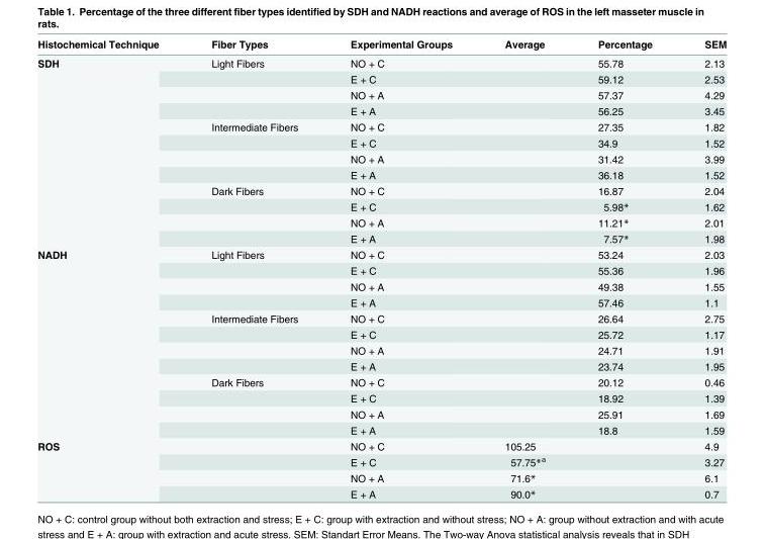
<table><thead><tr><td>Histochemical Technique</td><td>Fiber Types</td><td>Experimental Groups</td><td>Average</td><td>Percentage</td><td>SEM</td></tr></thead><tbody><tr><td rowspan="12">SDH</td><td>Light Fibers</td><td>NO + C</td><td></td><td>55.78</td><td>2.13</td></tr><tr><td></td><td>E + C</td><td></td><td>59.12</td><td>2.53</td></tr><tr><td></td><td>NO + A</td><td></td><td>57.37</td><td>4.29</td></tr><tr><td></td><td>E + A</td><td></td><td>56.25</td><td>3.45</td></tr><tr><td>Intermediate Fibers</td><td>NO + C</td><td></td><td>27.35</td><td>1.82</td></tr><tr><td></td><td>E + C</td><td></td><td>34.9</td><td>1.52</td></tr><tr><td></td><td>NO + A</td><td></td><td>31.42</td><td>3.99</td></tr><tr><td></td><td>E + A</td><td></td><td>36.18</td><td>1.52</td></tr><tr><td>Dark Fibers</td><td>NO + C</td><td></td><td>16.87</td><td>2.04</td></tr><tr><td></td><td>E + C</td><td></td><td>5.98*</td><td>1.62</td></tr><tr><td></td><td>NO + A</td><td></td><td>11.21*</td><td>2.01</td></tr><tr><td></td><td>E + A</td><td></td><td>7.57*</td><td>1.98</td></tr><tr><td rowspan="12">NADH</td><td>Light Fibers</td><td>NO + C</td><td></td><td>53.24</td><td>2.03</td></tr><tr><td></td><td>E + C</td><td></td><td>55.36</td><td>1.96</td></tr><tr><td></td><td>NO + A</td><td></td><td>49.38</td><td>1.55</td></tr><tr><td></td><td>E + A</td><td></td><td>57.46</td><td>1.1</td></tr><tr><td>Intermediate Fibers</td><td>NO + C</td><td></td><td>26.64</td><td>2.75</td></tr><tr><td></td><td>E + C</td><td></td><td>25.72</td><td>1.17</td></tr><tr><td></td><td>NO + A</td><td></td><td>24.71</td><td>1.91</td></tr><tr><td></td><td>E + A</td><td></td><td>23.74</td><td>1.95</td></tr><tr><td>Dark Fibers</td><td>NO + C</td><td></td><td>20.12</td><td>0.46</td></tr><tr><td></td><td>E + C</td><td></td><td>18.92</td><td>1.39</td></tr><tr><td></td><td>NO + A</td><td></td><td>25.91</td><td>1.69</td></tr><tr><td></td><td>E + A</td><td></td><td>18.8</td><td>1.59</td></tr><tr><td rowspan="4">ROS</td><td></td><td>NO + C</td><td>105.25</td><td></td><td>4.9</td></tr><tr><td></td><td>E + C</td><td>57.75*<sup>a</sup></td><td></td><td>3.27</td></tr><tr><td></td><td>NO + A</td><td>71.6*</td><td></td><td>6.1</td></tr><tr><td></td><td>E + A</td><td>90.0*</td><td></td><td>0.7</td></tr></tbody></table>